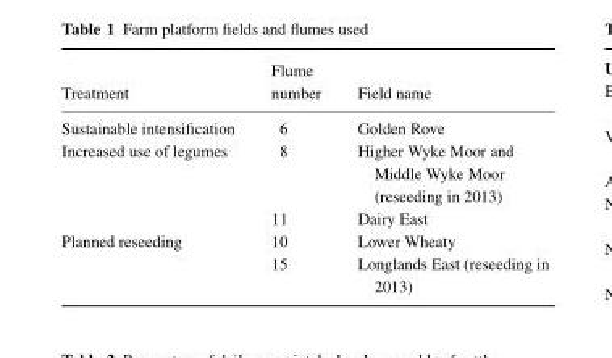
<table><thead><tr><td>Treatment</td><td>Flume number</td><td>Field name</td></tr></thead><tbody><tr><td>Sustainable intensification</td><td>6</td><td>Golden Rove</td></tr><tr><td rowspan="2">Increased use of legumes</td><td>8</td><td>Higher Wyke Moor and Middle Wyke Moor (reseeding in 2013)</td></tr><tr><td>11</td><td>Dairy East</td></tr><tr><td rowspan="2">Planned reseeding</td><td>10</td><td>Lower Wheaty</td></tr><tr><td>15</td><td>Longlands East (reseeding in 2013)</td></tr></tbody></table>